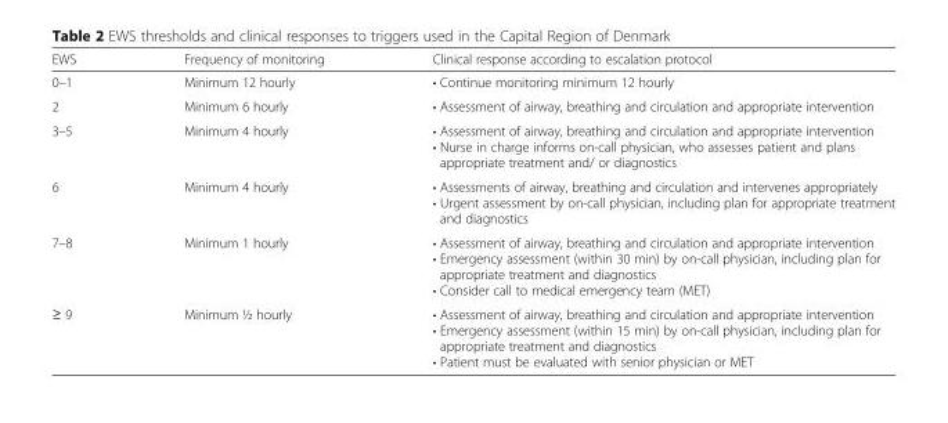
<table><thead><tr><td>EWS</td><td>Frequency of monitoring</td><td>Clinical response according to escalation protocol</td></tr></thead><tbody><tr><td>0–1</td><td>Minimum 12 hourly</td><td>• Continue monitoring minimum 12 hourly</td></tr><tr><td>2</td><td>Minimum 6 hourly</td><td>• Assessment of airway, breathing and circulation and appropriate intervention</td></tr><tr><td>3–5</td><td>Minimum 4 hourly</td><td>• Assessment of airway, breathing and circulation and appropriate intervention • Nurse in charge informs on-call physician, who assesses patient and plans appropriate treatment and/ or diagnostics</td></tr><tr><td>6</td><td>Minimum 4 hourly</td><td>• Assessments of airway, breathing and circulation and intervenes appropriately • Urgent assessment by on-call physician, including plan for appropriate treatment and diagnostics</td></tr><tr><td>7–8</td><td>Minimum 1 hourly</td><td>• Assessment of airway, breathing and circulation and appropriate intervention • Emergency assessment (within 30 min) by on-call physician, including plan for appropriate treatment and diagnostics • Consider call to medical emergency team (MET)</td></tr><tr><td>≥ 9</td><td>Minimum ½ hourly</td><td>• Assessment of airway, breathing and circulation and appropriate intervention • Emergency assessment (within 15 min) by on-call physician, including plan for appropriate treatment and diagnostics • Patient must be evaluated with senior physician or MET</td></tr></tbody></table>